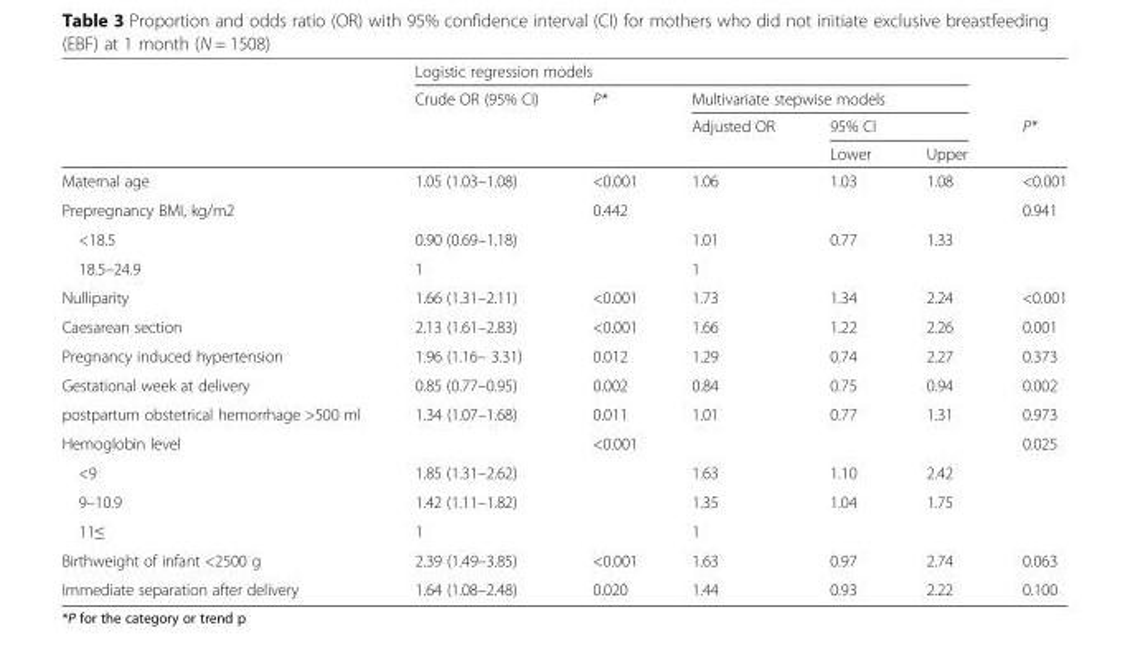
<table><thead><tr><td rowspan="4"></td><td colspan="5">Logistic regression models</td><td rowspan="4">P*</td></tr><tr><td rowspan="3">Crude OR (95% CI)</td><td rowspan="3">P*</td><td colspan="3">Multivariate stepwise models</td></tr><tr><td rowspan="2">Adjusted OR</td><td colspan="2">95% CI</td></tr><tr><td>Lower</td><td>Upper</td></tr></thead><tbody><tr><td>Maternal age</td><td>1.05 (1.03–1.08)</td><td>&lt;0.001</td><td>1.06</td><td>1.03</td><td>1.08</td><td>&lt;0.001</td></tr><tr><td>Prepregnancy BMI, kg/m2</td><td></td><td>0.442</td><td></td><td></td><td></td><td>0.941</td></tr><tr><td>&lt;18.5</td><td>0.90 (0.69–1.18)</td><td></td><td>1.01</td><td>0.77</td><td>1.33</td><td></td></tr><tr><td>18.5–24.9</td><td>1</td><td></td><td colspan="3">1</td><td></td></tr><tr><td>Nulliparity</td><td>1.66 (1.31–2.11)</td><td>&lt;0.001</td><td>1.73</td><td>1.34</td><td>2.24</td><td>&lt;0.001</td></tr><tr><td>Caesarean section</td><td>2.13 (1.61–2.83)</td><td>&lt;0.001</td><td>1.66</td><td>1.22</td><td>2.26</td><td>0.001</td></tr><tr><td>Pregnancy induced hypertension</td><td>1.96 (1.16– 3.31)</td><td>0.012</td><td>1.29</td><td>0.74</td><td>2.27</td><td>0.373</td></tr><tr><td>Gestational week at delivery</td><td>0.85 (0.77–0.95)</td><td>0.002</td><td>0.84</td><td>0.75</td><td>0.94</td><td>0.002</td></tr><tr><td>postpartum obstetrical hemorrhage &gt;500 ml</td><td>1.34 (1.07–1.68)</td><td>0.011</td><td>1.01</td><td>0.77</td><td>1.31</td><td>0.973</td></tr><tr><td>Hemoglobin level</td><td></td><td>&lt;0.001</td><td></td><td></td><td></td><td>0.025</td></tr><tr><td>&lt;9</td><td>1.85 (1.31–2.62)</td><td></td><td>1.63</td><td>1.10</td><td>2.42</td><td></td></tr><tr><td>9–10.9</td><td>1.42 (1.11–1.82)</td><td></td><td>1.35</td><td>1.04</td><td>1.75</td><td></td></tr><tr><td>11≤</td><td>1</td><td></td><td colspan="3">1</td><td></td></tr><tr><td>Birthweight of infant &lt;2500 g</td><td>2.39 (1.49–3.85)</td><td>&lt;0.001</td><td>1.63</td><td>0.97</td><td>2.74</td><td>0.063</td></tr><tr><td>Immediate separation after delivery</td><td>1.64 (1.08–2.48)</td><td>0.020</td><td>1.44</td><td>0.93</td><td>2.22</td><td>0.100</td></tr></tbody></table>